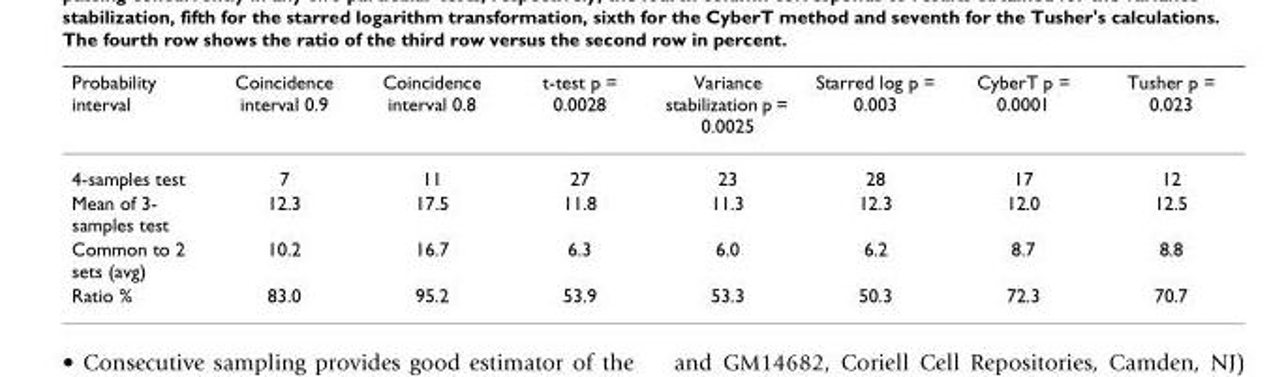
<table><thead><tr><td>Probability interval</td><td>Coincidence interval 0.9</td><td>Coincidence interval 0.8</td><td>t-test p = 0.0028</td><td>Variance stabilization p = 0.0025</td><td>Starred log p = 0.003</td><td>CyberT p = 0.0001</td><td>Tusher p = 0.023</td></tr></thead><tbody><tr><td>4-samples test</td><td>7</td><td>11</td><td>27</td><td>23</td><td>28</td><td>17</td><td>12</td></tr><tr><td>Mean of 3- samples test</td><td>12.3</td><td>17.5</td><td>11.8</td><td>11.3</td><td>12.3</td><td>12.0</td><td>12.5</td></tr><tr><td>Common to 2 sets (avg)</td><td>10.2</td><td>16.7</td><td>6.3</td><td>6.0</td><td>6.2</td><td>8.7</td><td>8.8</td></tr><tr><td>Ratio %</td><td>83.0</td><td>95.2</td><td>53.9</td><td>53.3</td><td>50.3</td><td>72.3</td><td>70.7</td></tr></tbody></table>